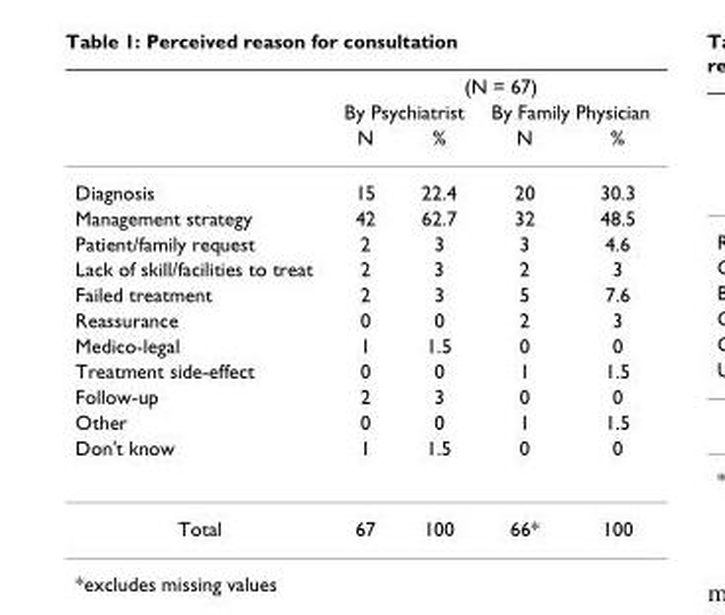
<table><thead><tr><td rowspan="3"></td><td colspan="4">(N = 67)</td></tr><tr><td colspan="2">By Psychiatrist</td><td colspan="2">By Family Physician</td></tr><tr><td>N</td><td>%</td><td>N</td><td>%</td></tr></thead><tbody><tr><td>Diagnosis</td><td>15</td><td>22.4</td><td>20</td><td>30.3</td></tr><tr><td>Management strategy</td><td>42</td><td>62.7</td><td>32</td><td>48.5</td></tr><tr><td>Patient/family request</td><td>2</td><td>3</td><td>3</td><td>4.6</td></tr><tr><td>Lack of skill/facilities to treat</td><td>2</td><td>3</td><td>2</td><td>3</td></tr><tr><td>Failed treatment</td><td>2</td><td>3</td><td>5</td><td>7.6</td></tr><tr><td>Reassurance</td><td>0</td><td>0</td><td>2</td><td>3</td></tr><tr><td>Medico-legal</td><td>1</td><td>1.5</td><td>0</td><td>0</td></tr><tr><td>Treatment side-effect</td><td>0</td><td>0</td><td>1</td><td>1.5</td></tr><tr><td>Follow-up</td><td>2</td><td>3</td><td>0</td><td>0</td></tr><tr><td>Other</td><td>0</td><td>0</td><td>1</td><td>1.5</td></tr><tr><td>Don&#x27;t know</td><td>1</td><td>1.5</td><td>0</td><td>0</td></tr><tr><td>Total</td><td>67</td><td>100</td><td>66*</td><td>100</td></tr></tbody></table>